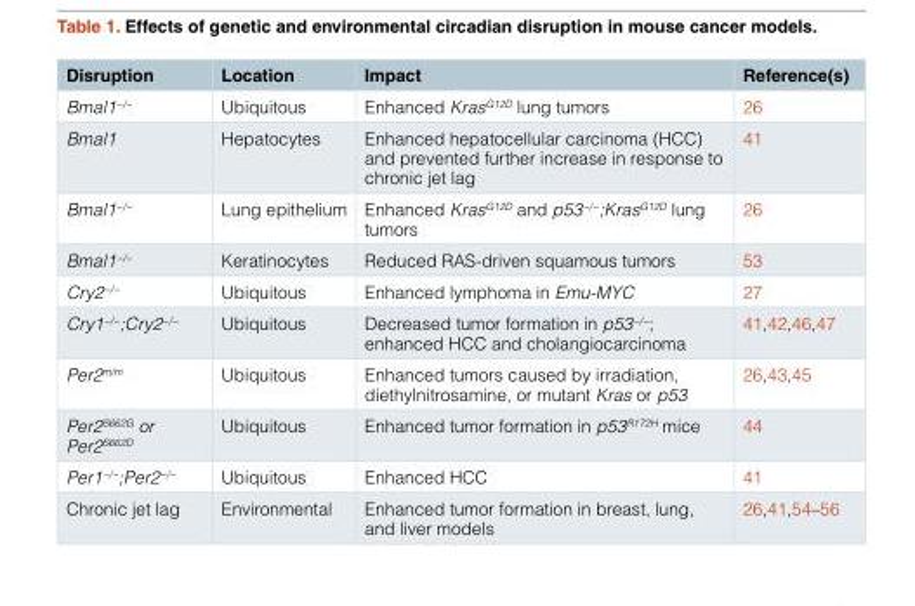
<table><thead><tr><td>Disruption</td><td>Location</td><td>Impact</td><td>Reference(s)</td></tr></thead><tbody><tr><td>Bmal1<sup>−/−</sup></td><td>Ubiquitous</td><td>Enhanced Kras<sup>G12D</sup> lung tumors</td><td>26</td></tr><tr><td>Bmal1</td><td>Hepatocytes</td><td>Enhanced hepatocellular carcinoma (HCC) and prevented further increase in response to chronic jet lag</td><td>41</td></tr><tr><td>Bmal1<sup>−/−</sup></td><td>Lung epithelium</td><td>Enhanced Kras<sup>G12D</sup> and p53<sup>−/−</sup>;Kras<sup>G12D</sup> lung tumors</td><td>26</td></tr><tr><td>Bmal1<sup>−/−</sup></td><td>Keratinocytes</td><td>Reduced RAS-driven squamous tumors</td><td>53</td></tr><tr><td>Cry2<sup>−/−</sup></td><td>Ubiquitous</td><td>Enhanced lymphoma in Emu-MYC</td><td>27</td></tr><tr><td>Cry1<sup>−/−</sup>;Cry2<sup>−/−</sup></td><td>Ubiquitous</td><td>Decreased tumor formation in p53<sup>−/−</sup>; enhanced HCC and cholangiocarcinoma</td><td>41,42,46,47</td></tr><tr><td>Per2<sup>m/m</sup></td><td>Ubiquitous</td><td>Enhanced tumors caused by irradiation, diethylnitrosamine, or mutant Kras or p53</td><td>26,43,45</td></tr><tr><td>Per2<sup>S662G</sup> or Per2<sup>S662D</sup></td><td>Ubiquitous</td><td>Enhanced tumor formation in p53<sup>R172H</sup> mice</td><td>44</td></tr><tr><td>Per1<sup>−/−</sup>;Per2<sup>−/−</sup></td><td>Ubiquitous</td><td>Enhanced HCC</td><td>41</td></tr><tr><td>Chronic jet lag</td><td>Environmental</td><td>Enhanced tumor formation in breast, lung, and liver models</td><td>26,41,54–56</td></tr></tbody></table>